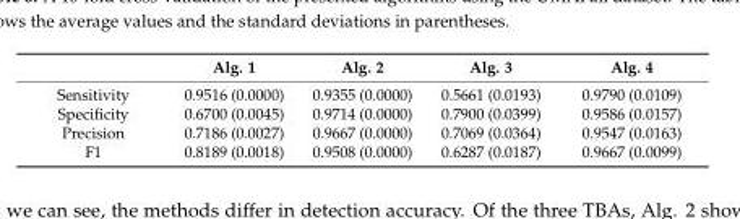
<table><thead><tr><td></td><td>Alg. 1</td><td>Alg. 2</td><td>Alg. 3</td><td>Alg. 4</td></tr></thead><tbody><tr><td>Sensitivity</td><td>0.9516 (0.0000)</td><td>0.9355 (0.0000)</td><td>0.5661 (0.0193)</td><td>0.9790 (0.0109)</td></tr><tr><td>Specificity</td><td>0.6700 (0.0045)</td><td>0.9714 (0.0000)</td><td>0.7900 (0.0399)</td><td>0.9586 (0.0157)</td></tr><tr><td>Precision</td><td>0.7186 (0.0027)</td><td>0.9667 (0.0000)</td><td>0.7069 (0.0364)</td><td>0.9547 (0.0163)</td></tr><tr><td>F1</td><td>0.8189 (0.0018)</td><td>0.9508 (0.0000)</td><td>0.6287 (0.0187)</td><td>0.9667 (0.0099)</td></tr></tbody></table>